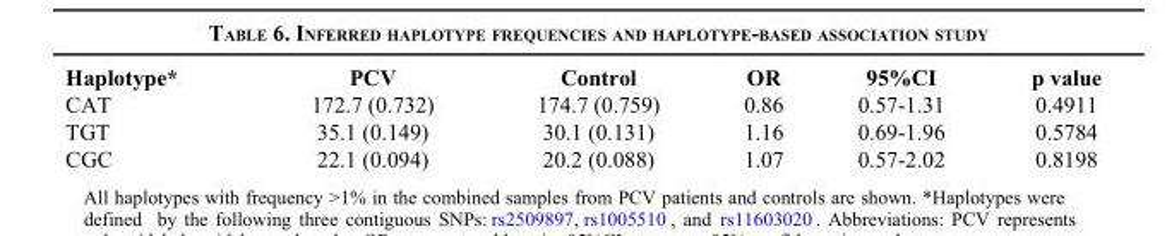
<table><thead><tr><td>Haplotype*</td><td>PCV</td><td>Control</td><td>OR</td><td>95%CI</td><td>p value</td></tr></thead><tbody><tr><td>CAT</td><td>172.7 (0.732)</td><td>174.7 (0.759)</td><td>0.86</td><td>0.57-1.31</td><td>0.4911</td></tr><tr><td>TGT</td><td>35.1 (0.149)</td><td>30.1 (0.131)</td><td>1.16</td><td>0.69-1.96</td><td>0.5784</td></tr><tr><td>CGC</td><td>22.1 (0.094)</td><td>20.2 (0.088)</td><td>1.07</td><td>0.57-2.02</td><td>0.8198</td></tr></tbody></table>